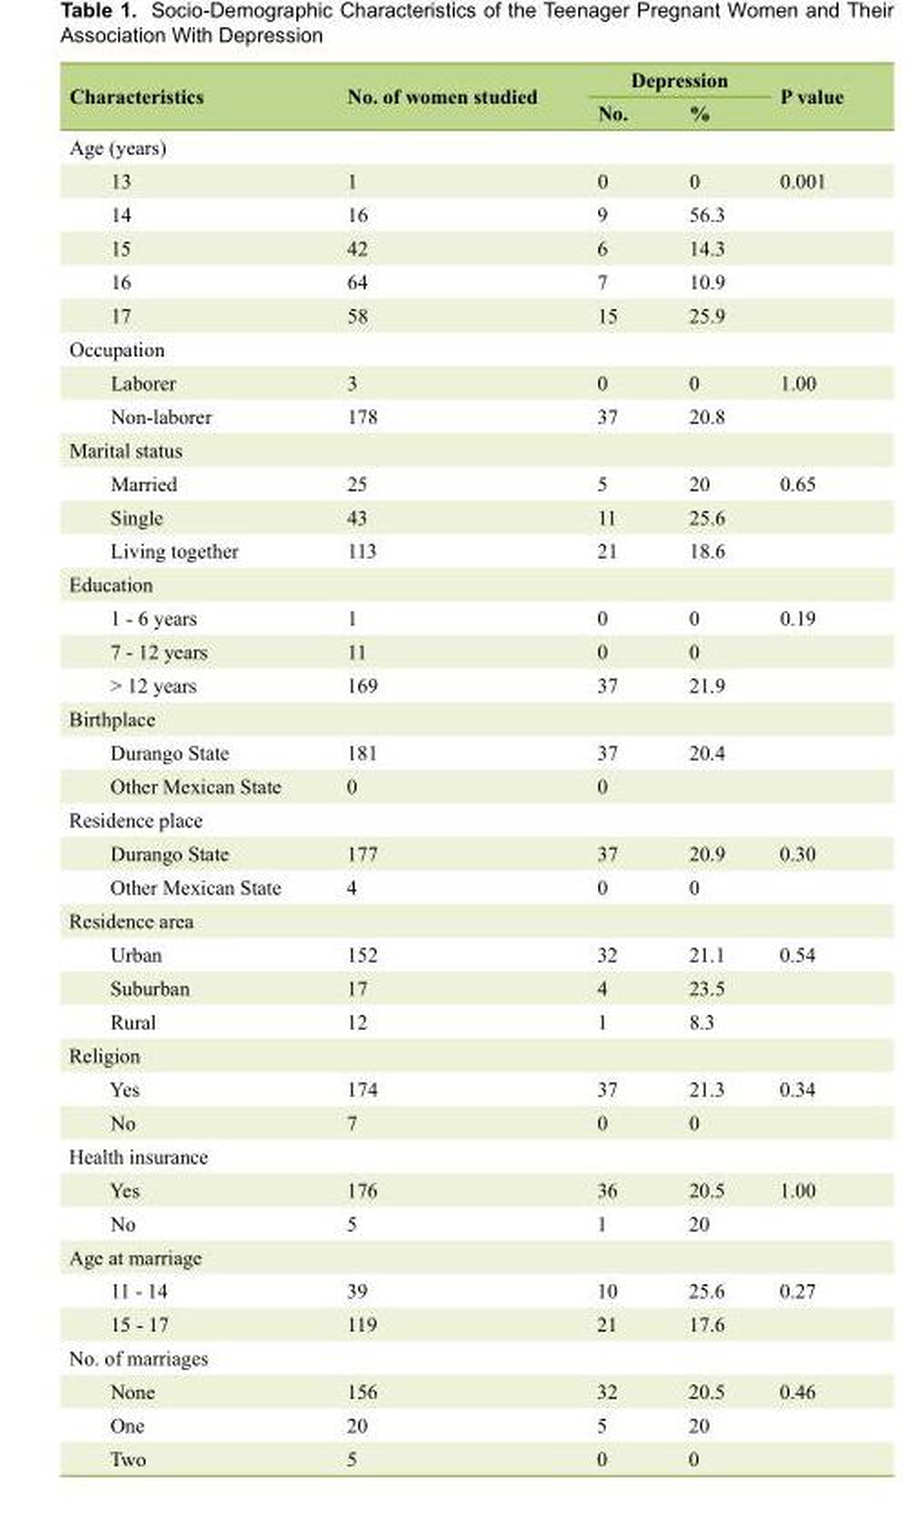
<table><thead><tr><td rowspan="2">Characteristics</td><td rowspan="2">No. of women studied</td><td colspan="2">Depression</td><td rowspan="2">P value</td></tr><tr><td>No.</td><td>%</td></tr></thead><tbody><tr><td colspan="5">Age (years)</td></tr><tr><td>13</td><td>1</td><td>0</td><td>0</td><td>0.001</td></tr><tr><td>14</td><td>16</td><td>9</td><td>56.3</td><td></td></tr><tr><td>15</td><td>42</td><td>6</td><td>14.3</td><td></td></tr><tr><td>16</td><td>64</td><td>7</td><td>10.9</td><td></td></tr><tr><td>17</td><td>58</td><td>15</td><td>25.9</td><td></td></tr><tr><td colspan="5">Occupation</td></tr><tr><td>Laborer</td><td>3</td><td>0</td><td>0</td><td>1.00</td></tr><tr><td>Non-laborer</td><td>178</td><td>37</td><td>20.8</td><td></td></tr><tr><td colspan="5">Marital status</td></tr><tr><td>Married</td><td>25</td><td>5</td><td>20</td><td>0.65</td></tr><tr><td>Single</td><td>43</td><td>11</td><td>25.6</td><td></td></tr><tr><td>Living together</td><td>113</td><td>21</td><td>18.6</td><td></td></tr><tr><td colspan="5">Education</td></tr><tr><td>1 - 6 years</td><td>1</td><td>0</td><td>0</td><td>0.19</td></tr><tr><td>7 - 12 years</td><td>11</td><td>0</td><td>0</td><td></td></tr><tr><td>&gt; 12 years</td><td>169</td><td>37</td><td>21.9</td><td></td></tr><tr><td colspan="5">Birthplace</td></tr><tr><td>Durango State</td><td>181</td><td>37</td><td>20.4</td><td></td></tr><tr><td>Other Mexican State</td><td>0</td><td>0</td><td></td><td></td></tr><tr><td colspan="5">Residence place</td></tr><tr><td>Durango State</td><td>177</td><td>37</td><td>20.9</td><td>0.30</td></tr><tr><td>Other Mexican State</td><td>4</td><td>0</td><td>0</td><td></td></tr><tr><td colspan="5">Residence area</td></tr><tr><td>Urban</td><td>152</td><td>32</td><td>21.1</td><td>0.54</td></tr><tr><td>Suburban</td><td>17</td><td>4</td><td>23.5</td><td></td></tr><tr><td>Rural</td><td>12</td><td>1</td><td>8.3</td><td></td></tr><tr><td colspan="5">Religion</td></tr><tr><td>Yes</td><td>174</td><td>37</td><td>21.3</td><td>0.34</td></tr><tr><td>No</td><td>7</td><td>0</td><td>0</td><td></td></tr><tr><td colspan="5">Health insurance</td></tr><tr><td>Yes</td><td>176</td><td>36</td><td>20.5</td><td>1.00</td></tr><tr><td>No</td><td>5</td><td>1</td><td>20</td><td></td></tr><tr><td colspan="5">Age at marriage</td></tr><tr><td>11 - 14</td><td>39</td><td>10</td><td>25.6</td><td>0.27</td></tr><tr><td>15 - 17</td><td>119</td><td>21</td><td>17.6</td><td></td></tr><tr><td colspan="5">No. of marriages</td></tr><tr><td>None</td><td>156</td><td>32</td><td>20.5</td><td>0.46</td></tr><tr><td>One</td><td>20</td><td>5</td><td>20</td><td></td></tr><tr><td>Two</td><td>5</td><td>0</td><td>0</td><td></td></tr></tbody></table>